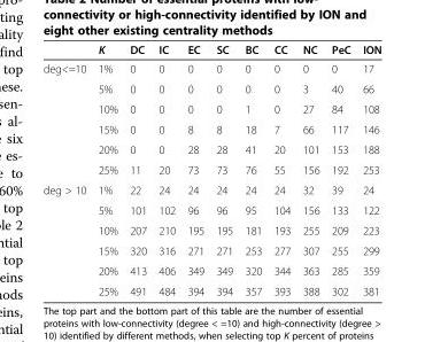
<table><thead><tr><td></td><td>K</td><td>DC</td><td>IC</td><td>EC</td><td>SC</td><td>BC</td><td>CC</td><td>NC</td><td>PeC</td><td>ION</td></tr></thead><tbody><tr><td rowspan="6">deg&lt;=10</td><td>1%</td><td>0</td><td>0</td><td>0</td><td>0</td><td>0</td><td>0</td><td>0</td><td>0</td><td>17</td></tr><tr><td>5%</td><td>0</td><td>0</td><td>0</td><td>0</td><td>0</td><td>0</td><td>3</td><td>40</td><td>66</td></tr><tr><td>10%</td><td>0</td><td>0</td><td>0</td><td>0</td><td>1</td><td>0</td><td>27</td><td>84</td><td>108</td></tr><tr><td>15%</td><td>0</td><td>0</td><td>8</td><td>8</td><td>18</td><td>7</td><td>66</td><td>117</td><td>146</td></tr><tr><td>20%</td><td>0</td><td>0</td><td>28</td><td>28</td><td>41</td><td>20</td><td>101</td><td>153</td><td>188</td></tr><tr><td>25%</td><td>11</td><td>20</td><td>73</td><td>73</td><td>76</td><td>55</td><td>156</td><td>192</td><td>253</td></tr><tr><td rowspan="6">deg &gt; 10</td><td>1%</td><td>22</td><td>24</td><td>24</td><td>24</td><td>24</td><td>24</td><td>32</td><td>39</td><td>24</td></tr><tr><td>5%</td><td>101</td><td>102</td><td>96</td><td>96</td><td>95</td><td>104</td><td>156</td><td>133</td><td>122</td></tr><tr><td>10%</td><td>207</td><td>210</td><td>195</td><td>195</td><td>181</td><td>193</td><td>255</td><td>209</td><td>223</td></tr><tr><td>15%</td><td>320</td><td>316</td><td>271</td><td>271</td><td>253</td><td>277</td><td>307</td><td>255</td><td>299</td></tr><tr><td>20%</td><td>413</td><td>406</td><td>349</td><td>349</td><td>320</td><td>344</td><td>363</td><td>285</td><td>359</td></tr><tr><td>25%</td><td>491</td><td>484</td><td>394</td><td>394</td><td>357</td><td>393</td><td>388</td><td>302</td><td>381</td></tr></tbody></table>